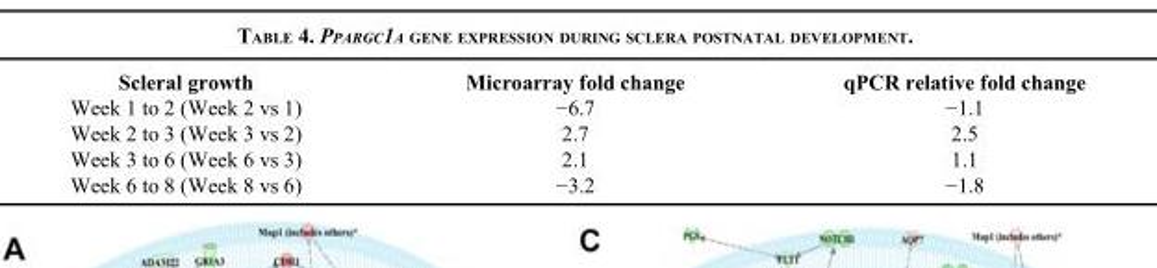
<table><thead><tr><td>Scleral growth</td><td>Microarray fold change</td><td>qPCR relative fold change</td></tr></thead><tbody><tr><td>Week 1 to 2 (Week 2 vs 1)</td><td>−6.7</td><td>−1.1</td></tr><tr><td>Week 2 to 3 (Week 3 vs 2)</td><td>2.7</td><td>2.5</td></tr><tr><td>Week 3 to 6 (Week 6 vs 3)</td><td>2.1</td><td>1.1</td></tr><tr><td>Week 6 to 8 (Week 8 vs 6)</td><td>−3.2</td><td>−1.8</td></tr></tbody></table>